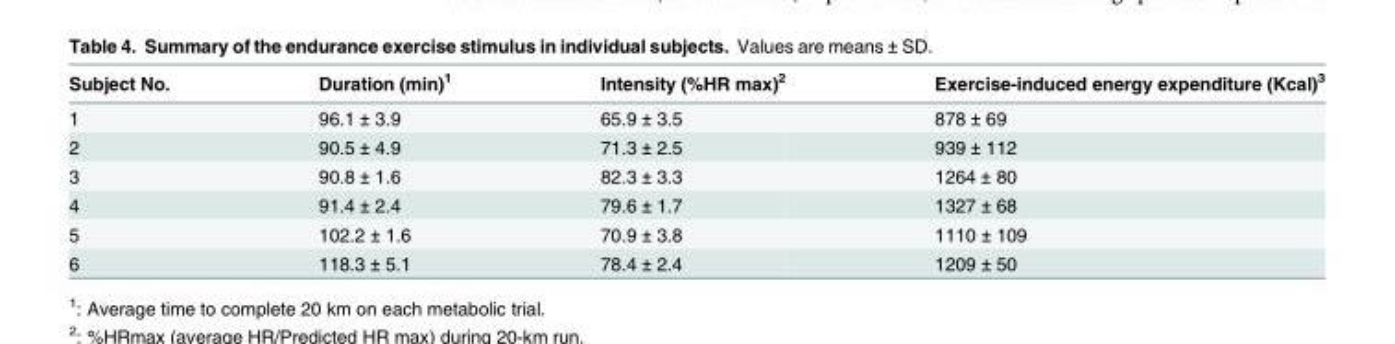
<table><thead><tr><td>Subject No.</td><td>Duration (min)<sup>1</sup></td><td>Intensity (%HR max)<sup>2</sup></td><td>Exercise-induced energy expenditure (Kcal)<sup>3</sup></td></tr></thead><tbody><tr><td>1</td><td>96.1 ± 3.9</td><td>65.9 ± 3.5</td><td>878 ± 69</td></tr><tr><td>2</td><td>90.5 ± 4.9</td><td>71.3 ± 2.5</td><td>939 ± 112</td></tr><tr><td>3</td><td>90.8 ± 1.6</td><td>82.3 ± 3.3</td><td>1264 ± 80</td></tr><tr><td>4</td><td>91.4 ± 2.4</td><td>79.6 ± 1.7</td><td>1327 ± 68</td></tr><tr><td>5</td><td>102.2 ± 1.6</td><td>70.9 ± 3.8</td><td>1110 ± 109</td></tr><tr><td>6</td><td>118.3 ± 5.1</td><td>78.4 ± 2.4</td><td>1209 ± 50</td></tr></tbody></table>